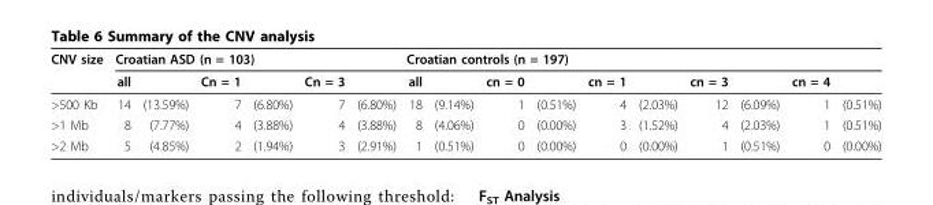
<table><thead><tr><td rowspan="2">CNV size</td><td colspan="4">Croatian ASD (n = 103)</td><td rowspan="2">Cn = 3</td><td rowspan="2"></td><td colspan="4">Croatian controls (n = 197)</td><td rowspan="2">cn = 1</td><td rowspan="2"></td><td rowspan="2">cn = 3</td><td rowspan="2"></td><td rowspan="2">cn = 4</td><td rowspan="2"></td></tr><tr><td>all</td><td></td><td>Cn = 1</td><td></td><td>all</td><td></td><td>cn = 0</td><td></td></tr></thead><tbody><tr><td>&gt;500 Kb</td><td>14</td><td>(13.59%)</td><td>7</td><td>(6.80%)</td><td>7</td><td>(6.80%)</td><td>18</td><td>(9.14%)</td><td>1</td><td>(0.51%)</td><td>4</td><td>(2.03%)</td><td>12</td><td>(6.09%)</td><td>1</td><td>(0.51%)</td></tr><tr><td>&gt;1 Mb</td><td>8</td><td>(7.77%)</td><td>4</td><td>(3.88%)</td><td>4</td><td>(3.88%)</td><td>8</td><td>(4.06%)</td><td>0</td><td>(0.00%)</td><td>3</td><td>(1.52%)</td><td>4</td><td>(2.03%)</td><td>1</td><td>(0.51%)</td></tr><tr><td>&gt;2 Mb</td><td>5</td><td>(4.85%)</td><td>2</td><td>(1.94%)</td><td>3</td><td>(2.91%)</td><td>1</td><td>(0.51%)</td><td>0</td><td>(0.00%)</td><td>0</td><td>(0.00%)</td><td>1</td><td>(0.51%)</td><td>0</td><td>(0.00%)</td></tr></tbody></table>